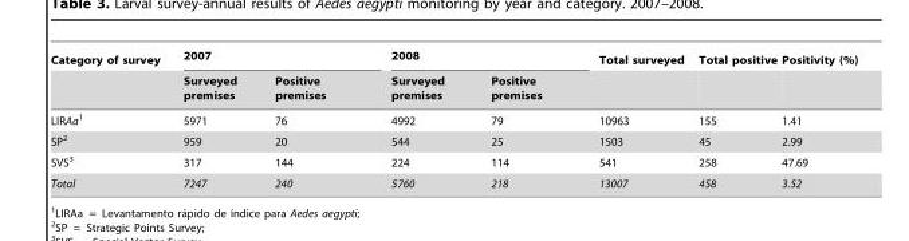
<table><thead><tr><td rowspan="2">Category of survey</td><td colspan="2">2007</td><td colspan="2">2008</td><td rowspan="2">Total surveyed</td><td rowspan="2">Total positive</td><td rowspan="2">Positivity (%)</td></tr><tr><td>Surveyed premises</td><td>Positive premises</td><td>Surveyed premises</td><td>Positive premises</td></tr></thead><tbody><tr><td>LIRAa1</td><td>5971</td><td>76</td><td>4992</td><td>79</td><td>10963</td><td>155</td><td>1.41</td></tr><tr><td>SP<sup>2</sup></td><td>959</td><td>20</td><td>544</td><td>25</td><td>1503</td><td>45</td><td>2.99</td></tr><tr><td>SVS<sup>3</sup></td><td>317</td><td>144</td><td>224</td><td>114</td><td>541</td><td>258</td><td>47.69</td></tr><tr><td>Total</td><td>7247</td><td>240</td><td>5760</td><td>218</td><td>13007</td><td>458</td><td>3.52</td></tr></tbody></table>